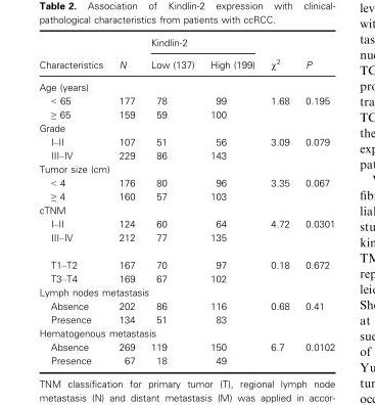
<table><thead><tr><td rowspan="2">Characteristics</td><td rowspan="2">N</td><td colspan="2">Kindlin-2</td><td rowspan="2">χ<sup>2</sup></td><td rowspan="2">P</td></tr><tr><td>Low (137)</td><td>High (199)</td></tr></thead><tbody><tr><td colspan="6">Age (years)</td></tr><tr><td>&lt; 65</td><td>177</td><td>78</td><td>99</td><td>1.68</td><td>0.195</td></tr><tr><td>≥ 65</td><td>159</td><td>59</td><td>100</td><td></td><td></td></tr><tr><td colspan="6">Grade</td></tr><tr><td>I–II</td><td>107</td><td>51</td><td>56</td><td>3.09</td><td>0.079</td></tr><tr><td>III–IV</td><td>229</td><td>86</td><td>143</td><td></td><td></td></tr><tr><td colspan="6">Tumor size (cm)</td></tr><tr><td>&lt; 4</td><td>176</td><td>80</td><td>96</td><td>3.35</td><td>0.067</td></tr><tr><td>≥ 4</td><td>160</td><td>57</td><td>103</td><td></td><td></td></tr><tr><td colspan="6">cTNM</td></tr><tr><td>I–II</td><td>124</td><td>60</td><td>64</td><td>4.72</td><td>0.0301</td></tr><tr><td>III–IV</td><td>212</td><td>77</td><td>135</td><td></td><td></td></tr><tr><td>T1–T2</td><td>167</td><td>70</td><td>97</td><td>0.18</td><td>0.672</td></tr><tr><td>T3–T4</td><td>169</td><td>67</td><td>102</td><td></td><td></td></tr><tr><td colspan="6">Lymph nodes metastasis</td></tr><tr><td>Absence</td><td>202</td><td>86</td><td>116</td><td>0.68</td><td>0.41</td></tr><tr><td>Presence</td><td>134</td><td>51</td><td>83</td><td></td><td></td></tr><tr><td colspan="6">Hematogenous metastasis</td></tr><tr><td>Absence</td><td>269</td><td>119</td><td>150</td><td>6.7</td><td>0.0102</td></tr><tr><td>Presence</td><td>67</td><td>18</td><td>49</td><td></td><td></td></tr></tbody></table>